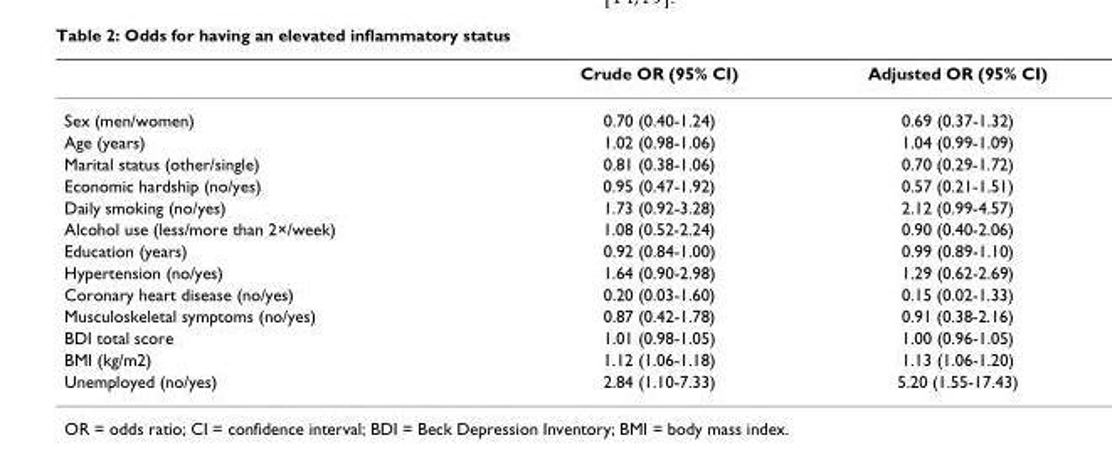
<table><thead><tr><td></td><td>Crude OR (95% CI)</td><td>Adjusted OR (95% CI)</td></tr></thead><tbody><tr><td>Sex (men/women)</td><td>0.70 (0.40-1.24)</td><td>0.69 (0.37-1.32)</td></tr><tr><td>Age (years)</td><td>1.02 (0.98-1.06)</td><td>1.04 (0.99-1.09)</td></tr><tr><td>Marital status (other/single)</td><td>0.81 (0.38-1.06)</td><td>0.70 (0.29-1.72)</td></tr><tr><td>Economic hardship (no/yes)</td><td>0.95 (0.47-1.92)</td><td>0.57 (0.21-1.51)</td></tr><tr><td>Daily smoking (no/yes)</td><td>1.73 (0.92-3.28)</td><td>2.12 (0.99-4.57)</td></tr><tr><td>Alcohol use (less/more than 2×/week)</td><td>1.08 (0.52-2.24)</td><td>0.90 (0.40-2.06)</td></tr><tr><td>Education (years)</td><td>0.92 (0.84-1.00)</td><td>0.99 (0.89-1.10)</td></tr><tr><td>Hypertension (no/yes)</td><td>1.64 (0.90-2.98)</td><td>1.29 (0.62-2.69)</td></tr><tr><td>Coronary heart disease (no/yes)</td><td>0.20 (0.03-1.60)</td><td>0.15 (0.02-1.33)</td></tr><tr><td>Musculoskeletal symptoms (no/yes)</td><td>0.87 (0.42-1.78)</td><td>0.91 (0.38-2.16)</td></tr><tr><td>BDI total score</td><td>1.01 (0.98-1.05)</td><td>1.00 (0.96-1.05)</td></tr><tr><td>BMI (kg/m2)</td><td>1.12 (1.06-1.18)</td><td>1.13 (1.06-1.20)</td></tr><tr><td>Unemployed (no/yes)</td><td>2.84 (1.10-7.33)</td><td>5.20 (1.55-17.43)</td></tr></tbody></table>